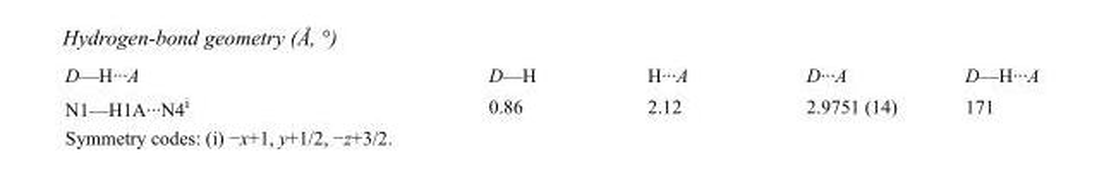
<table><tbody><tr><td>D—H···A</td><td>D—H</td><td>H···A</td><td>D···A</td><td>D—H···A</td></tr><tr><td>N1—H1A···N4<sup>i</sup></td><td>0.86</td><td>2.12</td><td>2.9751 (14)</td><td>171</td></tr></tbody></table>